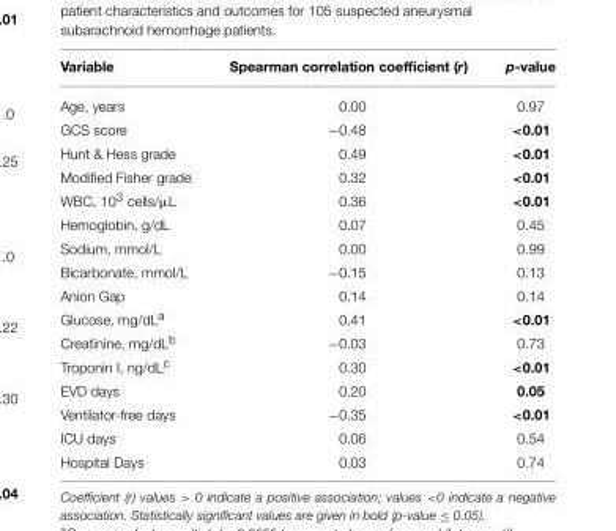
<table><thead><tr><td>Variable</td><td>Spearman correlation coefficient (r)</td><td>p-value</td></tr></thead><tbody><tr><td>Age, years</td><td>0.00</td><td>0.97</td></tr><tr><td>GCS score</td><td>−0.48</td><td>&lt;0.01</td></tr><tr><td>Hunt &amp; Hess grade</td><td>0.49</td><td>&lt;0.01</td></tr><tr><td>Modified Fisher grade</td><td>0.32</td><td>&lt;0.01</td></tr><tr><td>WBC, 10<sup>3</sup> cells/µL</td><td>0.36</td><td>&lt;0.01</td></tr><tr><td>Hemoglobin, g/dL</td><td>0.07</td><td>0.45</td></tr><tr><td>Sodium, mmol/L</td><td>0.00</td><td>0.99</td></tr><tr><td>Bicarbonate, mmol/L</td><td>−0.15</td><td>0.13</td></tr><tr><td>Anion Gap</td><td>0.14</td><td>0.14</td></tr><tr><td>Glucose, mg/dL<sup>a</sup></td><td>0.41</td><td>&lt;0.01</td></tr><tr><td>Creatinine, mg/dL<sup>b</sup></td><td>−0.03</td><td>0.73</td></tr><tr><td>Troponin I, ng/dL<sup>c</sup></td><td>0.30</td><td>&lt;0.01</td></tr><tr><td>EVD days</td><td>0.20</td><td>0.05</td></tr><tr><td>Ventilator-free days</td><td>−0.35</td><td>&lt;0.01</td></tr><tr><td>ICU days</td><td>0.06</td><td>0.54</td></tr><tr><td>Hospital Days</td><td>0.03</td><td>0.74</td></tr></tbody></table>